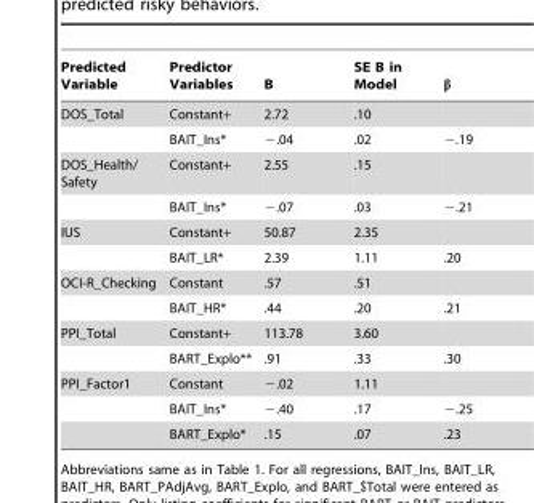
<table><thead><tr><td>Predicted Variable</td><td>Predictor Variables</td><td>B</td><td>SE B in Model</td><td>β</td></tr></thead><tbody><tr><td rowspan="2">DOS_Total</td><td>Constant+</td><td>2.72</td><td>.10</td><td></td></tr><tr><td>BAIT_Ins*</td><td>−.04</td><td>.02</td><td>−.19</td></tr><tr><td rowspan="2">DOS_Health/ Safety</td><td>Constant+</td><td>2.55</td><td>.15</td><td></td></tr><tr><td>BAIT_Ins*</td><td>−.07</td><td>.03</td><td>−.21</td></tr><tr><td rowspan="2">IUS</td><td>Constant+</td><td>50.87</td><td>2.35</td><td></td></tr><tr><td>BAIT_LR*</td><td>2.39</td><td>1.11</td><td>.20</td></tr><tr><td rowspan="2">OCI-R_Checking</td><td>Constant</td><td>.57</td><td>.51</td><td></td></tr><tr><td>BAIT_HR*</td><td>.44</td><td>.20</td><td>.21</td></tr><tr><td rowspan="2">PPI_Total</td><td>Constant+</td><td>113.78</td><td>3.60</td><td></td></tr><tr><td>BART_Explo**</td><td>.91</td><td>.33</td><td>.30</td></tr><tr><td rowspan="3">PPI_Factor1</td><td>Constant</td><td>−.02</td><td>1.11</td><td></td></tr><tr><td>BAIT_Ins*</td><td>−.40</td><td>.17</td><td>−.25</td></tr><tr><td>BART_Explo*</td><td>.15</td><td>.07</td><td>.23</td></tr></tbody></table>